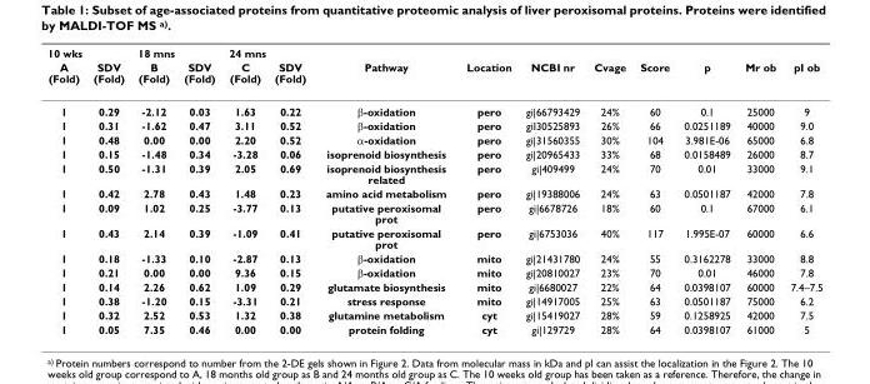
<table><thead><tr><td colspan="2">10 wks</td><td colspan="2">18 mns</td><td colspan="2">24 mns</td><td rowspan="2">Pathway</td><td rowspan="2">Location</td><td rowspan="2">NCBI nr</td><td rowspan="2">Cvage</td><td rowspan="2">Score</td><td rowspan="2">p</td><td rowspan="2">Mr ob</td><td rowspan="2">pI ob</td></tr><tr><td>A (Fold)</td><td>SDV (Fold)</td><td>B (Fold)</td><td>SDV (Fold)</td><td>C (Fold)</td><td>SDV (Fold)</td></tr></thead><tbody><tr><td>1</td><td>0.29</td><td>-2.12</td><td>0.03</td><td>1.63</td><td>0.22</td><td>β-oxidation</td><td>pero</td><td>gi|66793429</td><td>24%</td><td>60</td><td>0.1</td><td>25000</td><td>9</td></tr><tr><td>1</td><td>0.31</td><td>-1.62</td><td>0.47</td><td>3.11</td><td>0.52</td><td>β-oxidation</td><td>pero</td><td>giI30525893</td><td>26%</td><td>66</td><td>0.0251189</td><td>40000</td><td>9.0</td></tr><tr><td>1</td><td>0.48</td><td>0.00</td><td>0.00</td><td>2.20</td><td>0.52</td><td>α-oxidation</td><td>pero</td><td>gi|31560355</td><td>30%</td><td>104</td><td>3.981E-06</td><td>65000</td><td>6.8</td></tr><tr><td>1</td><td>0.15</td><td>-1.48</td><td>0.34</td><td>-3.28</td><td>0.06</td><td>isoprenoid biosynthesis</td><td>pero</td><td>gi|20965433</td><td>33%</td><td>68</td><td>0.0158489</td><td>26000</td><td>8.7</td></tr><tr><td>1</td><td>0.50</td><td>-1.31</td><td>0.39</td><td>2.05</td><td>0.69</td><td>isoprenoid biosynthesis related</td><td>pero</td><td>gi|409499</td><td>24%</td><td>70</td><td>0.01</td><td>33000</td><td>9.1</td></tr><tr><td>1</td><td>0.42</td><td>2.78</td><td>0.43</td><td>1.48</td><td>0.23</td><td>amino acid metabolism</td><td>pero</td><td>gi|19388006</td><td>24%</td><td>63</td><td>0.0501187</td><td>42000</td><td>7.8</td></tr><tr><td>1</td><td>0.09</td><td>1.02</td><td>0.25</td><td>-3.77</td><td>0.13</td><td>putative peroxisomal prot</td><td>pero</td><td>gi|6678726</td><td>18%</td><td>60</td><td>0.1</td><td>67000</td><td>6.1</td></tr><tr><td>1</td><td>0.43</td><td>2.14</td><td>0.39</td><td>-1.09</td><td>0.41</td><td>putative peroxisomal prot</td><td>pero</td><td>gi|6753036</td><td>40%</td><td>117</td><td>1.995E-07</td><td>60000</td><td>6.6</td></tr><tr><td>1</td><td>0.18</td><td>-1.33</td><td>0.10</td><td>-2.87</td><td>0.13</td><td>β-oxidation</td><td>mito</td><td>gi|21431780</td><td>24%</td><td>55</td><td>0.3162278</td><td>33000</td><td>8.8</td></tr><tr><td>1</td><td>0.21</td><td>0.00</td><td>0.00</td><td>9.36</td><td>0.15</td><td>β-oxidation</td><td>mito</td><td>gi|20810027</td><td>23%</td><td>70</td><td>0.01</td><td>46000</td><td>7.8</td></tr><tr><td>1</td><td>0.14</td><td>2.26</td><td>0.62</td><td>1.09</td><td>0.29</td><td>glutamate biosynthesis</td><td>mito</td><td>gi|6680027</td><td>22%</td><td>64</td><td>0.0398107</td><td>60000</td><td>7.4–7.5</td></tr><tr><td>1</td><td>0.38</td><td>-1.20</td><td>0.15</td><td>-3.31</td><td>0.21</td><td>stress response</td><td>mito</td><td>gi|14917005</td><td>25%</td><td>63</td><td>0.0501187</td><td>75000</td><td>6.2</td></tr><tr><td>1</td><td>0.32</td><td>2.52</td><td>0.53</td><td>1.32</td><td>0.38</td><td>glutamine metabolism</td><td>cyt</td><td>gi|15419027</td><td>28%</td><td>59</td><td>0.1258925</td><td>42000</td><td>7.5</td></tr><tr><td>1</td><td>0.05</td><td>7.35</td><td>0.46</td><td>0.00</td><td>0.00</td><td>protein folding</td><td>cyt</td><td>gi|129729</td><td>28%</td><td>64</td><td>0.0398107</td><td>61000</td><td>5</td></tr></tbody></table>